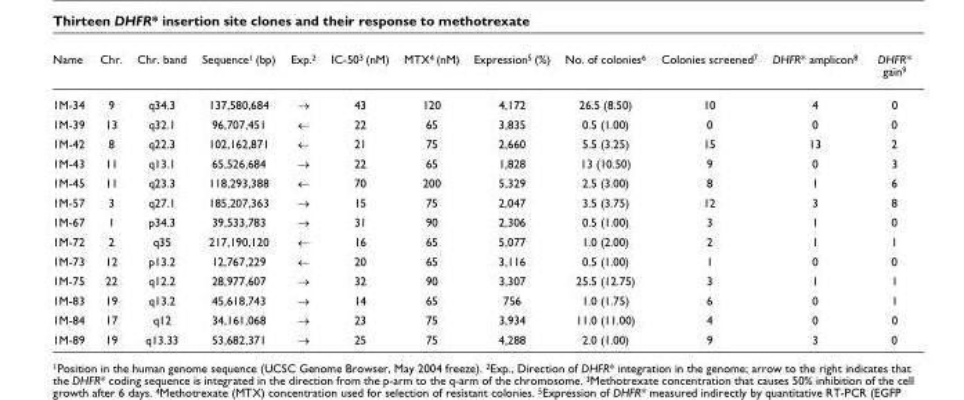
<table><thead><tr><td>Name</td><td>Chr.</td><td>Chr. band</td><td>Sequence<sup>1</sup> (bp)</td><td>Exp.<sup>2</sup></td><td>IC-50<sup>3</sup> (nM)</td><td>MTX<sup>4</sup> (nM)</td><td>Expression<sup>5</sup> (%)</td><td>No. of colonies<sup>6</sup></td><td>Colonies screened<sup>7</sup></td><td>DHFR* amplicon<sup>8</sup></td><td>DHFR* gain<sup>9</sup></td></tr></thead><tbody><tr><td>1M-34</td><td>9</td><td>q34.3</td><td>137,580,684</td><td>→</td><td>43</td><td>120</td><td>4,172</td><td>26.5 (8.50)</td><td>10</td><td>4</td><td>0</td></tr><tr><td>1M-39</td><td>13</td><td>q32.1</td><td>96,707,451</td><td>←</td><td>22</td><td>65</td><td>3,835</td><td>0.5 (1.00)</td><td>0</td><td>0</td><td>0</td></tr><tr><td>1M-42</td><td>8</td><td>q22.3</td><td>102,162,871</td><td>←</td><td>21</td><td>75</td><td>2,660</td><td>5.5 (3.25)</td><td>15</td><td>13</td><td>2</td></tr><tr><td>1M-43</td><td>11</td><td>q13.1</td><td>65,526,684</td><td>→</td><td>22</td><td>65</td><td>1,828</td><td>13 (10.50)</td><td>9</td><td>0</td><td>3</td></tr><tr><td>1M-45</td><td>11</td><td>q23.3</td><td>118,293,388</td><td>←</td><td>70</td><td>200</td><td>5,329</td><td>2.5 (3.00)</td><td>8</td><td>1</td><td>6</td></tr><tr><td>1M-57</td><td>3</td><td>q27.1</td><td>185,207,363</td><td>→</td><td>15</td><td>75</td><td>2,047</td><td>3.5 (3.75)</td><td>12</td><td>3</td><td>8</td></tr><tr><td>1M-67</td><td>1</td><td>p34.3</td><td>39,533,783</td><td>→</td><td>31</td><td>90</td><td>2,306</td><td>0.5 (1.00)</td><td>3</td><td>1</td><td>0</td></tr><tr><td>1M-72</td><td>2</td><td>q35</td><td>217,190,120</td><td>←</td><td>16</td><td>65</td><td>5,077</td><td>1.0 (2.00)</td><td>2</td><td>1</td><td>1</td></tr><tr><td>1M-73</td><td>12</td><td>p13.2</td><td>12,767,229</td><td>←</td><td>20</td><td>65</td><td>3,116</td><td>0.5 (1.00)</td><td>1</td><td>0</td><td>0</td></tr><tr><td>1M-75</td><td>22</td><td>q12.2</td><td>28,977,607</td><td>→</td><td>32</td><td>90</td><td>3,307</td><td>25.5 (12.75)</td><td>3</td><td>1</td><td>1</td></tr><tr><td>1M-83</td><td>19</td><td>q13.2</td><td>45,618,743</td><td>→</td><td>14</td><td>65</td><td>756</td><td>1.0 (1.75)</td><td>6</td><td>0</td><td>1</td></tr><tr><td>1M-84</td><td>17</td><td>q12</td><td>34,161,068</td><td>→</td><td>23</td><td>75</td><td>3,934</td><td>11.0 (11.00)</td><td>4</td><td>0</td><td>0</td></tr><tr><td>1M-89</td><td>19</td><td>q13.33</td><td>53,682,371</td><td>→</td><td>25</td><td>75</td><td>4,288</td><td>2.0 (1.00)</td><td>9</td><td>3</td><td>0</td></tr></tbody></table>